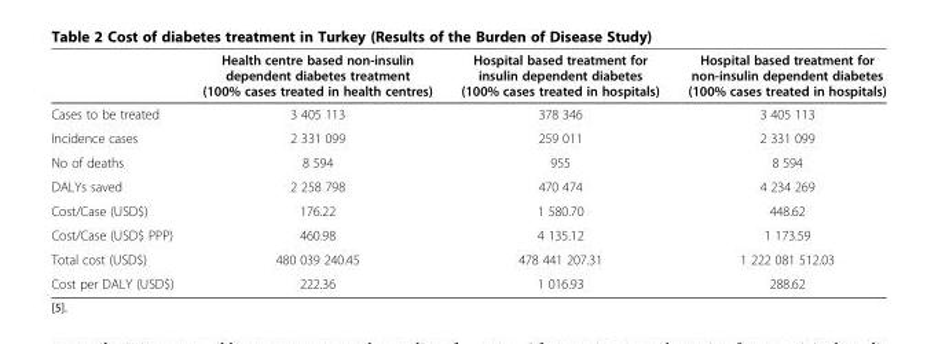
<table><thead><tr><td></td><td>Health centre based non-insulin dependent diabetes treatment (100% cases treated in health centres)</td><td>Hospital based treatment for insulin dependent diabetes (100% cases treated in hospitals)</td><td>Hospital based treatment for non-insulin dependent diabetes (100% cases treated in hospitals)</td></tr></thead><tbody><tr><td>Cases to be treated</td><td>3 405 113</td><td>378 346</td><td>3 405 113</td></tr><tr><td>Incidence cases</td><td>2 331 099</td><td>259 011</td><td>2 331 099</td></tr><tr><td>No of deaths</td><td>8 594</td><td>955</td><td>8 594</td></tr><tr><td>DALYs saved</td><td>2 258 798</td><td>470 474</td><td>4 234 269</td></tr><tr><td>Cost/Case (USD$)</td><td>176.22</td><td>1 580.70</td><td>448.62</td></tr><tr><td>Cost/Case (USD$ PPP)</td><td>460.98</td><td>4 135.12</td><td>1 173.59</td></tr><tr><td>Total cost (USD$)</td><td>480 039 240.45</td><td>478 441 207.31</td><td>1 222 081 512.03</td></tr><tr><td>Cost per DALY (USD$)</td><td>222.36</td><td>1 016.93</td><td>288.62</td></tr></tbody></table>